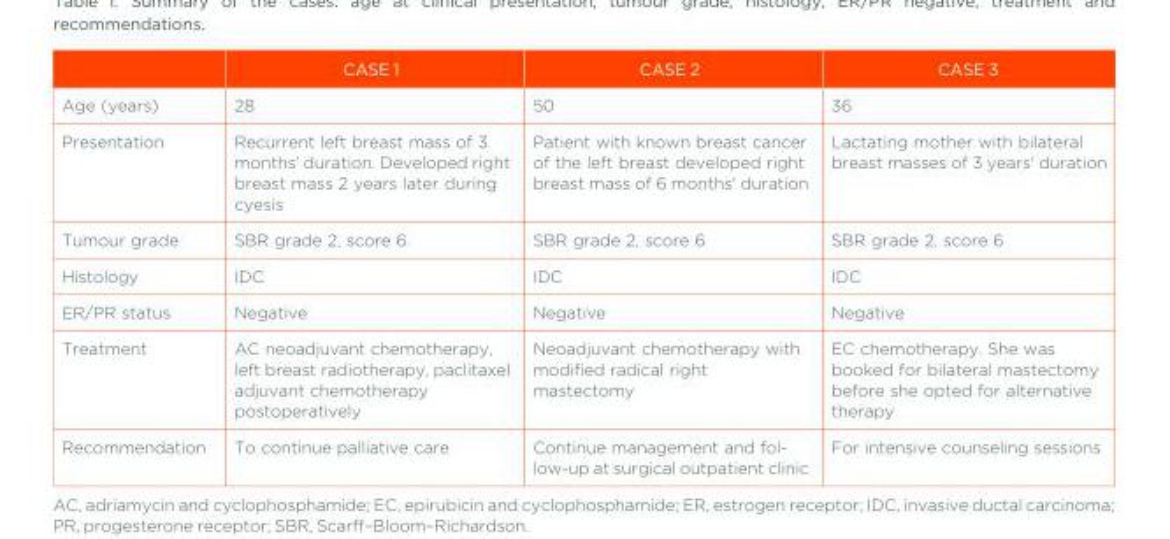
<table><thead><tr><td></td><td>CASE 1</td><td>CASE 2</td><td>CASE 3</td></tr></thead><tbody><tr><td>Age (years)</td><td>28</td><td>50</td><td>36</td></tr><tr><td>Presentation</td><td>Recurrent left breast mass of 3 months&#x27; duration. Developed right breast mass 2 years later during cyesis</td><td>Patient with known breast cancer of the left breast developed right breast mass of 6 months&#x27; duration</td><td>Lactating mother with bilateral breast masses of 3 years&#x27; duration</td></tr><tr><td>Tumour grade</td><td>SBR grade 2, score 6</td><td>SBR grade 2, score 6</td><td>SBR grade 2, score 6</td></tr><tr><td>Histology</td><td>IDC</td><td>IDC</td><td>IDC</td></tr><tr><td>ER/PR status</td><td>Negative</td><td>Negative</td><td>Negative</td></tr><tr><td>Treatment</td><td>AC neoadjuvant chemotherapy, left breast radiotherapy, paclitaxel adjuvant chemotherapy postoperatively</td><td>Neoadjuvant chemotherapy with modified radical right mastectomy</td><td>EC chemotherapy. She was booked for bilateral mastectomy before she opted for alternative therapy</td></tr><tr><td>Recommendation</td><td>To continue palliative care</td><td>Continue management and fol- low-up at surgical outpatient clinic</td><td>For intensive counseling sessions</td></tr></tbody></table>